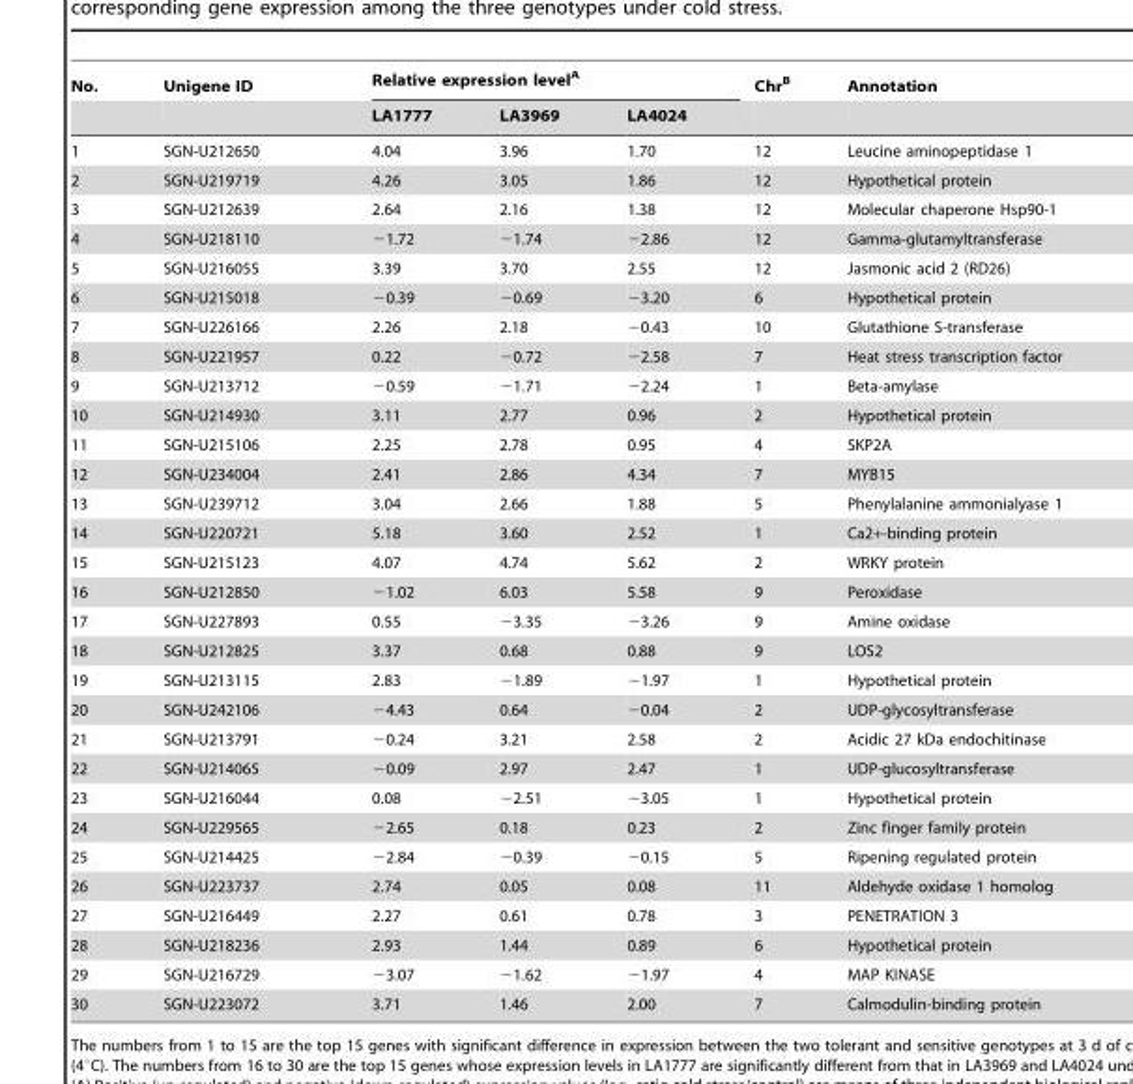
<table><thead><tr><td rowspan="2">No.</td><td rowspan="2">Unigene ID</td><td colspan="3">Relative expression level<sup>A</sup></td><td rowspan="2">Chr<sup>B</sup></td><td rowspan="2">Annotation</td></tr><tr><td>LA1777</td><td>LA3969</td><td>LA4024</td></tr></thead><tbody><tr><td>1</td><td>SGN-U212650</td><td>4.04</td><td>3.96</td><td>1.70</td><td>12</td><td>Leucine aminopeptidase 1</td></tr><tr><td>2</td><td>SGN-U219719</td><td>4.26</td><td>3.05</td><td>1.86</td><td>12</td><td>Hypothetical protein</td></tr><tr><td>3</td><td>SGN-U212639</td><td>2.64</td><td>2.16</td><td>1.38</td><td>12</td><td>Molecular chaperone Hsp90-1</td></tr><tr><td>4</td><td>SGN-U218110</td><td>−1.72</td><td>−1.74</td><td>−2.86</td><td>12</td><td>Gamma-glutamyltransferase</td></tr><tr><td>5</td><td>SGN-U216055</td><td>3.39</td><td>3.70</td><td>2.55</td><td>12</td><td>Jasmonic acid 2 (RD26)</td></tr><tr><td>6</td><td>SGN-U215018</td><td>−0.39</td><td>−0.69</td><td>−3.20</td><td>6</td><td>Hypothetical protein</td></tr><tr><td>7</td><td>SGN-U226166</td><td>2.26</td><td>2.18</td><td>−0.43</td><td>10</td><td>Glutathione S-transferase</td></tr><tr><td>8</td><td>SGN-U221957</td><td>0.22</td><td>−0.72</td><td>−2.58</td><td>7</td><td>Heat stress transcription factor</td></tr><tr><td>9</td><td>SGN-U213712</td><td>−0.59</td><td>−1.71</td><td>−2.24</td><td>1</td><td>Beta-amylase</td></tr><tr><td>10</td><td>SGN-U214930</td><td>3.11</td><td>2.77</td><td>0.96</td><td>2</td><td>Hypothetical protein</td></tr><tr><td>11</td><td>SGN-U215106</td><td>2.25</td><td>2.78</td><td>0.95</td><td>4</td><td>SKP2A</td></tr><tr><td>12</td><td>SGN-U234004</td><td>2.41</td><td>2.86</td><td>4.34</td><td>7</td><td>MYB15</td></tr><tr><td>13</td><td>SGN-U239712</td><td>3.04</td><td>2.66</td><td>1.88</td><td>5</td><td>Phenylalanine ammonialyase 1</td></tr><tr><td>14</td><td>SGN-U220721</td><td>5.18</td><td>3.60</td><td>2.52</td><td>1</td><td>Ca2+-binding protein</td></tr><tr><td>15</td><td>SGN-U215123</td><td>4.07</td><td>4.74</td><td>5.62</td><td>2</td><td>WRKY protein</td></tr><tr><td>16</td><td>SGN-U212850</td><td>−1.02</td><td>6.03</td><td>5.58</td><td>9</td><td>Peroxidase</td></tr><tr><td>17</td><td>SGN-U227893</td><td>0.55</td><td>−3.35</td><td>−3.26</td><td>9</td><td>Amine oxidase</td></tr><tr><td>18</td><td>SGN-U212825</td><td>3.37</td><td>0.68</td><td>0.88</td><td>9</td><td>LOS2</td></tr><tr><td>19</td><td>SGN-U213115</td><td>2.83</td><td>−1.89</td><td>−1.97</td><td>1</td><td>Hypothetical protein</td></tr><tr><td>20</td><td>SGN-U242106</td><td>−4.43</td><td>0.64</td><td>−0.04</td><td>2</td><td>UDP-glycosyltransferase</td></tr><tr><td>21</td><td>SGN-U213791</td><td>−0.24</td><td>3.21</td><td>2.58</td><td>2</td><td>Acidic 27 kDa endochitinase</td></tr><tr><td>22</td><td>SGN-U214065</td><td>−0.09</td><td>2.97</td><td>2.47</td><td>1</td><td>UDP-glucosyltransferase</td></tr><tr><td>23</td><td>SGN-U216044</td><td>0.08</td><td>−2.51</td><td>−3.05</td><td>1</td><td>Hypothetical protein</td></tr><tr><td>24</td><td>SGN-U229565</td><td>−2.65</td><td>0.18</td><td>0.23</td><td>2</td><td>Zinc finger family protein</td></tr><tr><td>25</td><td>SGN-U214425</td><td>−2.84</td><td>−0.39</td><td>−0.15</td><td>5</td><td>Ripening regulated protein</td></tr><tr><td>26</td><td>SGN-U223737</td><td>2.74</td><td>0.05</td><td>0.08</td><td>11</td><td>Aldehyde oxidase 1 homolog</td></tr><tr><td>27</td><td>SGN-U216449</td><td>2.27</td><td>0.61</td><td>0.78</td><td>3</td><td>PENETRATION 3</td></tr><tr><td>28</td><td>SGN-U218236</td><td>2.93</td><td>1.44</td><td>0.89</td><td>6</td><td>Hypothetical protein</td></tr><tr><td>29</td><td>SGN-U216729</td><td>−3.07</td><td>−1.62</td><td>−1.97</td><td>4</td><td>MAP KINASE</td></tr><tr><td>30</td><td>SGN-U223072</td><td>3.71</td><td>1.46</td><td>2.00</td><td>7</td><td>Calmodulin-binding protein</td></tr></tbody></table>